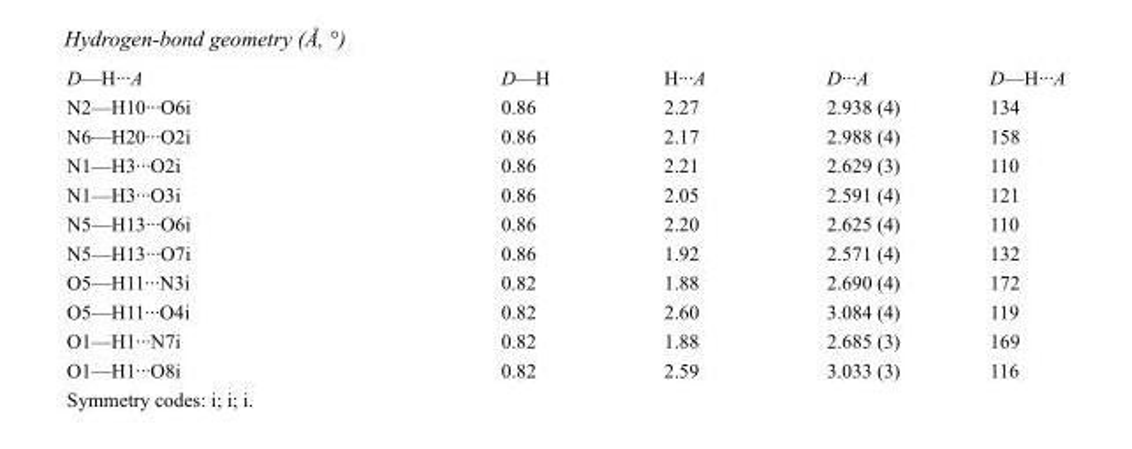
<table><tbody><tr><td>D—H···A</td><td>D—H</td><td>H···A</td><td>D···A</td><td>D—H···A</td></tr><tr><td>N2—H10···O6i</td><td>0.86</td><td>2.27</td><td>2.938 (4)</td><td>134</td></tr><tr><td>N6—H20···O2i</td><td>0.86</td><td>2.17</td><td>2.988 (4)</td><td>158</td></tr><tr><td>N1—H3···O2i</td><td>0.86</td><td>2.21</td><td>2.629 (3)</td><td>110</td></tr><tr><td>N1—H3···O3i</td><td>0.86</td><td>2.05</td><td>2.591 (4)</td><td>121</td></tr><tr><td>N5—H13···O6i</td><td>0.86</td><td>2.20</td><td>2.625 (4)</td><td>110</td></tr><tr><td>N5—H13···O7i</td><td>0.86</td><td>1.92</td><td>2.571 (4)</td><td>132</td></tr><tr><td>O5—H11···N3i</td><td>0.82</td><td>1.88</td><td>2.690 (4)</td><td>172</td></tr><tr><td>O5—H11···O4i</td><td>0.82</td><td>2.60</td><td>3.084 (4)</td><td>119</td></tr><tr><td>O1—H1···N7i</td><td>0.82</td><td>1.88</td><td>2.685 (3)</td><td>169</td></tr><tr><td>O1—H1···O8i</td><td>0.82</td><td>2.59</td><td>3.033 (3)</td><td>116</td></tr></tbody></table>